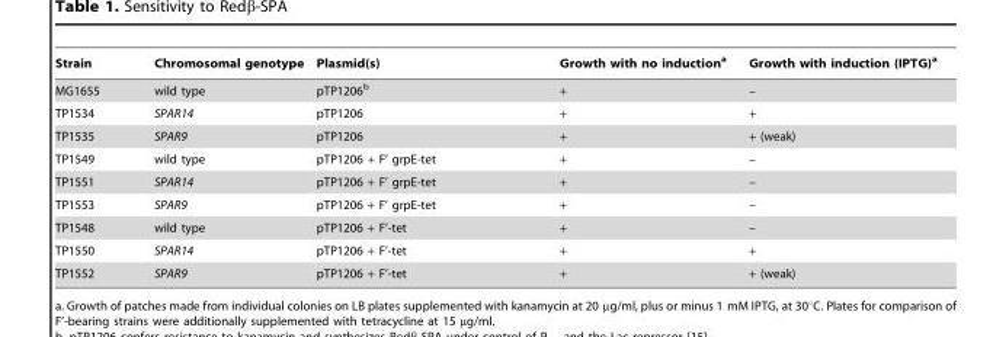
<table><thead><tr><td>Strain</td><td>Chromosomal genotype</td><td>Plasmid(s)</td><td>Growth with no induction<sup>a</sup></td><td>Growth with induction (IPTG)<sup>a</sup></td></tr></thead><tbody><tr><td>MG1655</td><td>wild type</td><td>pTP1206<sup>b</sup></td><td>+</td><td>–</td></tr><tr><td>TP1534</td><td>SPAR14</td><td>pTP1206</td><td>+</td><td>+</td></tr><tr><td>TP1535</td><td>SPAR9</td><td>pTP1206</td><td>+</td><td>+ (weak)</td></tr><tr><td>TP1549</td><td>wild type</td><td>pTP1206 + F’ grpE-tet</td><td>+</td><td>–</td></tr><tr><td>TP1551</td><td>SPAR14</td><td>pTP1206 + F’ grpE-tet</td><td>+</td><td>–</td></tr><tr><td>TP1553</td><td>SPAR9</td><td>pTP1206 + F’ grpE-tet</td><td>+</td><td>–</td></tr><tr><td>TP1548</td><td>wild type</td><td>pTP1206 + F’-tet</td><td>+</td><td>–</td></tr><tr><td>TP1550</td><td>SPAR14</td><td>pTP1206 + F’-tet</td><td>+</td><td>+</td></tr><tr><td>TP1552</td><td>SPAR9</td><td>pTP1206 + F’-tet</td><td>+</td><td>+ (weak)</td></tr></tbody></table>